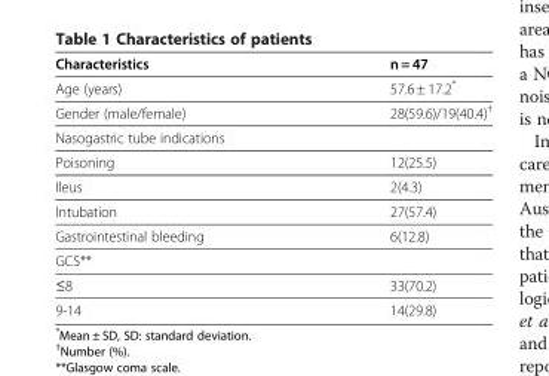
<table><thead><tr><td>Characteristics</td><td>n = 47</td></tr></thead><tbody><tr><td>Age (years)</td><td>57.6 ± 17.2*</td></tr><tr><td>Gender (male/female)</td><td>28(59.6)/19(40.4)<sup>†</sup></td></tr><tr><td colspan="2">Nasogastric tube indications</td></tr><tr><td>Poisoning</td><td>12(25.5)</td></tr><tr><td>Ileus</td><td>2(4.3)</td></tr><tr><td>Intubation</td><td>27(57.4)</td></tr><tr><td>Gastrointestinal bleeding</td><td>6(12.8)</td></tr><tr><td colspan="2">GCS**</td></tr><tr><td>≤8</td><td>33(70.2)</td></tr><tr><td>9-14</td><td>14(29.8)</td></tr></tbody></table>